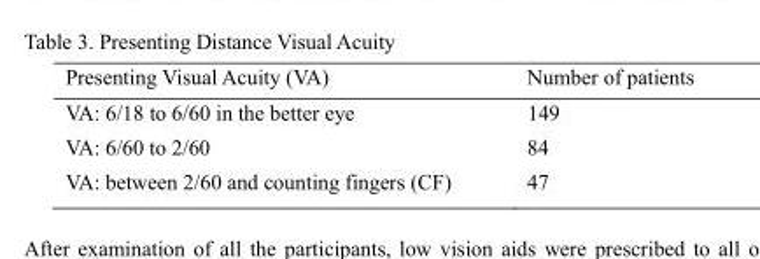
<table><thead><tr><td>Presenting Visual Acuity (VA)</td><td>Number of patients</td></tr></thead><tbody><tr><td>VA: 6/18 to 6/60 in the better eye</td><td>149</td></tr><tr><td>VA: 6/60 to 2/60</td><td>84</td></tr><tr><td>VA: between 2/60 and counting fingers (CF)</td><td>47</td></tr></tbody></table>